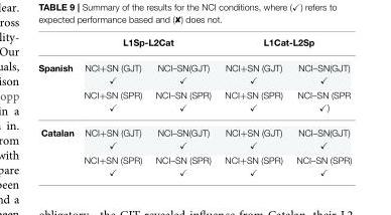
<table><thead><tr><td rowspan="2">Spanish</td><td colspan="2">L1Sp-L2Cat</td><td colspan="2">L1Cat-L2Sp</td></tr><tr><td>NCI+SN (GJT) ✓</td><td>NCI–SN(GJT) ✓</td><td>NCI+SN (GJT) ✓</td><td>NCI–SN(GJT) ✓</td></tr></thead><tbody><tr><td></td><td>NCI+SN (SPR) ✓</td><td>NCI–SN (SPR) ✓</td><td>NCI+SN (SPR) ✓</td><td>NCI–SN (SPR ✓)</td></tr><tr><td rowspan="2">Catalan</td><td>NCI+SN (GJT) ✓</td><td>NCI–SN(GJT) ✓</td><td>NCI+SN (GJT) ✓</td><td>NCI–SN(GJT) ✓</td></tr><tr><td>NCI+SN (SPR) ✓</td><td>NCI–SN (SPR) ✓</td><td>NCI+SN (SPR) ✓</td><td>NCI–SN (SPR) ✓</td></tr></tbody></table>